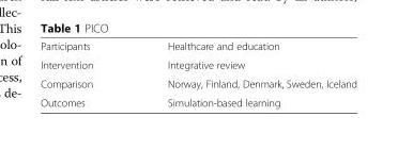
<table><tbody><tr><td>Participants</td><td>Healthcare and education</td></tr><tr><td>Intervention</td><td>Integrative review</td></tr><tr><td>Comparison</td><td>Norway, Finland, Denmark, Sweden, Iceland</td></tr><tr><td>Outcomes</td><td>Simulation-based learning</td></tr></tbody></table>